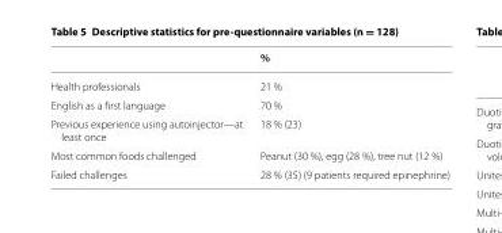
<table><thead><tr><td></td><td>%</td></tr></thead><tbody><tr><td>Health professionals</td><td>21 %</td></tr><tr><td>English as a first language</td><td>70 %</td></tr><tr><td>Previous experience using autoinjector—at least once</td><td>18 % (23)</td></tr><tr><td>Most common foods challenged</td><td>Peanut (30 %), egg (28 %), tree nut (12 %)</td></tr><tr><td>Failed challenges</td><td>28 % (35) (9 patients required epinephrine)</td></tr></tbody></table>